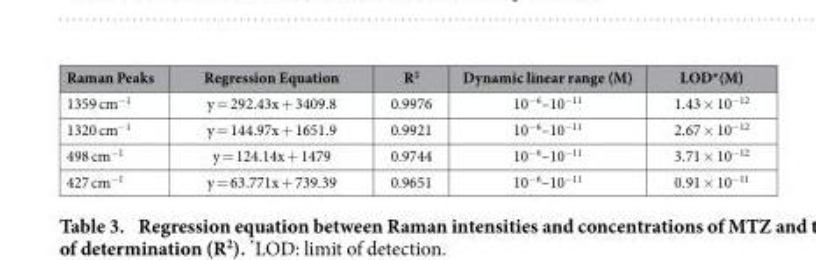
<table><thead><tr><td>Raman Peaks</td><td>Regression Equation</td><td>R<sup>2</sup></td><td>Dynamic linear range (M)</td><td>LOD*(M)</td></tr></thead><tbody><tr><td>1359 cm<sup>−1</sup></td><td>y = 292.43x + 3409.8</td><td>0.9976</td><td>10<sup>−6</sup>–10<sup>−11</sup></td><td>1.43 × 10<sup>−12</sup></td></tr><tr><td>1320 cm<sup>−1</sup></td><td>y = 144.97x + 1651.9</td><td>0.9921</td><td>10<sup>−6</sup>–10<sup>−11</sup></td><td>2.67 × 10<sup>−12</sup></td></tr><tr><td>498 cm<sup>−1</sup></td><td>y = 124.14x + 1479</td><td>0.9744</td><td>10<sup>−6</sup>–10<sup>−11</sup></td><td>3.71 × 10<sup>−12</sup></td></tr><tr><td>427 cm<sup>−1</sup></td><td>y = 63.771x + 739.39</td><td>0.9651</td><td>10<sup>−6</sup>–10<sup>−11</sup></td><td>0.91 × 10<sup>−11</sup></td></tr></tbody></table>